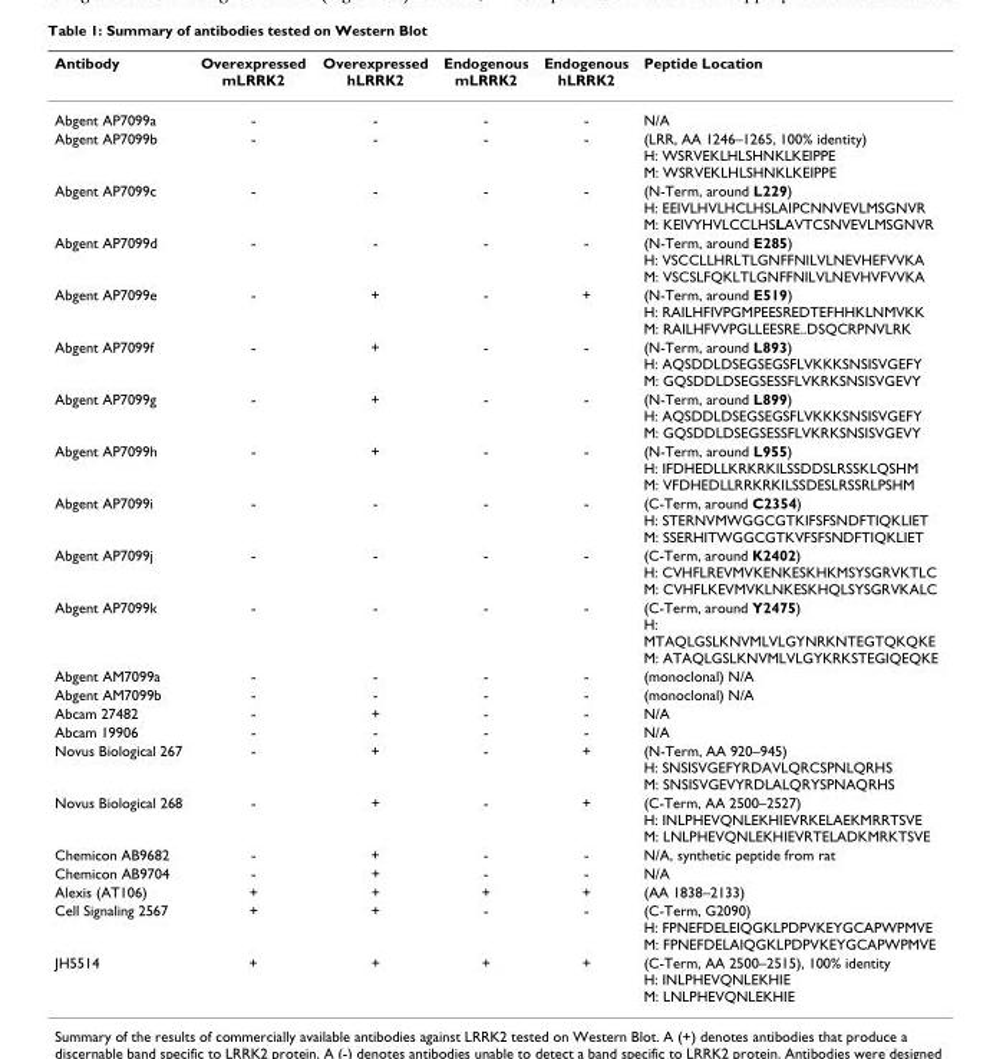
<table><thead><tr><td>Antibody</td><td>Overexpressed mLRRK2</td><td>Overexpressed hLRRK2</td><td>Endogenous mLRRK2</td><td>Endogenous hLRRK2</td><td>Peptide Location</td></tr></thead><tbody><tr><td>Abgent AP7099a</td><td>-</td><td>-</td><td>-</td><td>-</td><td>N/A</td></tr><tr><td>Abgent AP7099b</td><td>-</td><td>-</td><td>-</td><td>-</td><td>(LRR, AA 1246–1265, 100% identity) H: WSRVEKLHLSHNKLKEIPPE M: WSRVEKLHLSHNKLKEIPPE</td></tr><tr><td>Abgent AP7099c</td><td>-</td><td>-</td><td>-</td><td>-</td><td>(N-Term, around L229) H: EEIVLHVLHCLHSLAIPCNNVEVLMSGNVR M: KEIVYHVLCCLHSLAVTCSNVEVLMSGNVR</td></tr><tr><td>Abgent AP7099d</td><td>-</td><td>-</td><td>-</td><td>-</td><td>(N-Term, around E285) H: VSCCLLHRLTLGNFFNILVLNEVHEFVVKA M: VSCSLFQKLTLGNFFNILVLNEVHVFVVKA</td></tr><tr><td>Abgent AP7099e</td><td>-</td><td>+</td><td>-</td><td>+</td><td>(N-Term, around E519) H: RAILHFIVPGMPEESREDTEFHHKLNMVKK M: RAILHFVVPGLLEESRE..DSQCRPNVLRK</td></tr><tr><td>Abgent AP7099f</td><td>-</td><td>+</td><td>-</td><td>-</td><td>(N-Term, around L893) H: AQSDDLDSEGSEGSFLVKKKSNSISVGEFY M: GQSDDLDSEGSESSFLVKRKSNSISVGEVY</td></tr><tr><td>Abgent AP7099g</td><td>-</td><td>+</td><td>-</td><td>-</td><td>(N-Term, around L899) H: AQSDDLDSEGSEGSFLVKKKSNSISVGEFY M: GQSDDLDSEGSESSFLVKRKSNSISVGEVY</td></tr><tr><td>Abgent AP7099h</td><td>-</td><td>+</td><td>-</td><td>-</td><td>(N-Term, around L955) H: IFDHEDLLKRKRKILSSDDSLRSSKLQSHM M: VFDHEDLLRRKRKILSSDESLRSSRLPSHM</td></tr><tr><td>Abgent AP7099i</td><td>-</td><td>-</td><td>-</td><td>-</td><td>(C-Term, around C2354) H: STERNVMWGGCGTKIFSFSNDFTIQKLIET M: SSERHITWGGCGTKVFSFSNDFTIQKLIET</td></tr><tr><td>Abgent AP7099j</td><td>-</td><td>-</td><td>-</td><td>-</td><td>(C-Term, around K2402) H: CVHFLREVMVKENKESKHKMSYSGRVKTLC M: CVHFLKEVMVKLNKESKHQLSYSGRVKALC</td></tr><tr><td>Abgent AP7099k</td><td>-</td><td>-</td><td>-</td><td>-</td><td>(C-Term, around Y2475) H: MTAQLGSLKNVMLVLGYNRKNTEGTQKQKE M: ATAQLGSLKNVMLVLGYKRKSTEGIQEQKE</td></tr><tr><td>Abgent AM7099a</td><td>-</td><td>-</td><td>-</td><td>-</td><td>(monoclonal) N/A</td></tr><tr><td>Abgent AM7099b</td><td>-</td><td>-</td><td>-</td><td>-</td><td>(monoclonal) N/A</td></tr><tr><td>Abcam 27482</td><td>-</td><td>+</td><td>-</td><td>-</td><td>N/A</td></tr><tr><td>Abcam 19906</td><td>-</td><td>-</td><td>-</td><td>-</td><td>N/A</td></tr><tr><td>Novus Biological 267</td><td>-</td><td>+</td><td>-</td><td>+</td><td>(N-Term, AA 920–945) H: SNSISVGEFYRDAVLQRCSPNLQRHS M: SNSISVGEVYRDLALQRYSPNAQRHS</td></tr><tr><td>Novus Biological 268</td><td>-</td><td>+</td><td>-</td><td>+</td><td>(C-Term, AA 2500–2527) H: INLPHEVQNLEKHIEVRKELAEKMRRTSVE M: LNLPHEVQNLEKHIEVRTELADKMRKTSVE</td></tr><tr><td>Chemicon AB9682</td><td>-</td><td>+</td><td>-</td><td>-</td><td>N/A, synthetic peptide from rat</td></tr><tr><td>Chemicon AB9704</td><td>-</td><td>+</td><td>-</td><td>-</td><td>N/A</td></tr><tr><td>Alexis (AT106)</td><td>+</td><td>+</td><td>+</td><td>+</td><td>(AA 1838–2133)</td></tr><tr><td>Cell Signaling 2567</td><td>+</td><td>+</td><td>-</td><td>-</td><td>(C-Term, G2090) H: FPNEFDELEIQGKLPDPVKEYGCAPWPMVE M: FPNEFDELAIQGKLPDPVKEYGCAPWPMVE</td></tr><tr><td>JH5514</td><td>+</td><td>+</td><td>+</td><td>+</td><td>(C-Term, AA 2500–2515), 100% identity H: INLPHEVQNLEKHIE M: LNLPHEVQNLEKHIE</td></tr></tbody></table>